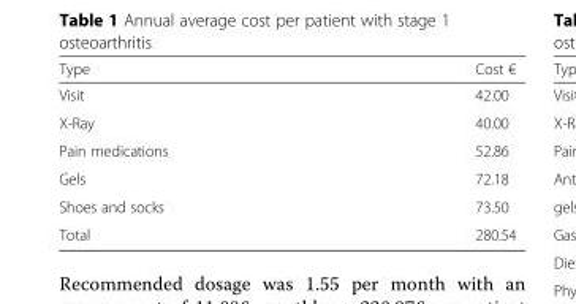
<table><thead><tr><td>Type</td><td>Cost €</td></tr></thead><tbody><tr><td>Visit</td><td>42.00</td></tr><tr><td>X-Ray</td><td>40.00</td></tr><tr><td>Pain medications</td><td>52.86</td></tr><tr><td>Gels</td><td>72.18</td></tr><tr><td>Shoes and socks</td><td>73.50</td></tr><tr><td>Total</td><td>280.54</td></tr></tbody></table>